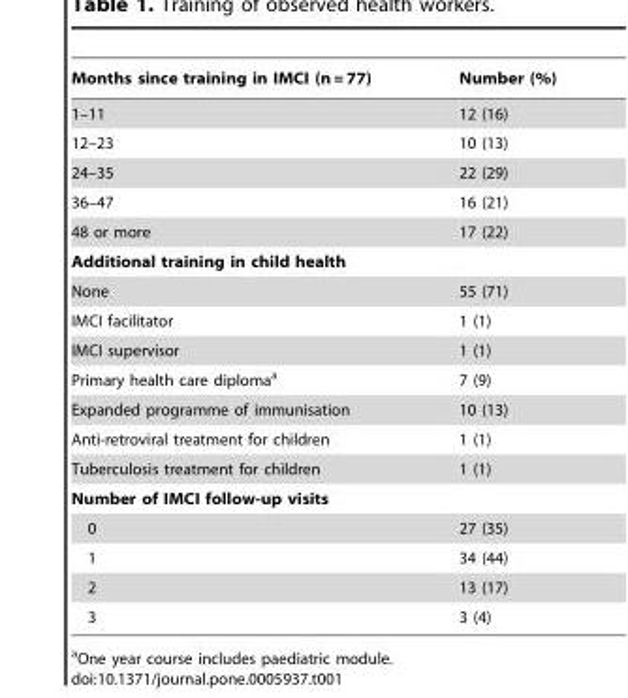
<table><thead><tr><td>Months since training in IMCI (n = 77)</td><td>Number (%)</td></tr></thead><tbody><tr><td>1–11</td><td>12 (16)</td></tr><tr><td>12–23</td><td>10 (13)</td></tr><tr><td>24–35</td><td>22 (29)</td></tr><tr><td>36–47</td><td>16 (21)</td></tr><tr><td>48 or more</td><td>17 (22)</td></tr><tr><td colspan="2">Additional training in child health</td></tr><tr><td>None</td><td>55 (71)</td></tr><tr><td>IMCI facilitator</td><td>1 (1)</td></tr><tr><td>IMCI supervisor</td><td>1 (1)</td></tr><tr><td>Primary health care diploma<sup>a</sup></td><td>7 (9)</td></tr><tr><td>Expanded programme of immunisation</td><td>10 (13)</td></tr><tr><td>Anti-retroviral treatment for children</td><td>1 (1)</td></tr><tr><td>Tuberculosis treatment for children</td><td>1 (1)</td></tr><tr><td colspan="2">Number of IMCI follow-up visits</td></tr><tr><td>0</td><td>27 (35)</td></tr><tr><td>1</td><td>34 (44)</td></tr><tr><td>2</td><td>13 (17)</td></tr><tr><td>3</td><td>3 (4)</td></tr></tbody></table>